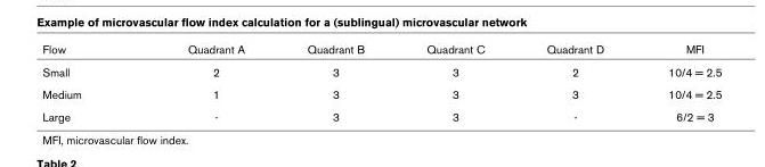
<table><thead><tr><td>Flow</td><td>Quadrant A</td><td>Quadrant B</td><td>Quadrant C</td><td>Quadrant D</td><td>MFI</td></tr></thead><tbody><tr><td>Small</td><td>2</td><td>3</td><td>3</td><td>2</td><td>10/4 = 2.5</td></tr><tr><td>Medium</td><td>1</td><td>3</td><td>3</td><td>3</td><td>10/4 = 2.5</td></tr><tr><td>Large</td><td>-</td><td>3</td><td>3</td><td>-</td><td>6/2 = 3</td></tr></tbody></table>